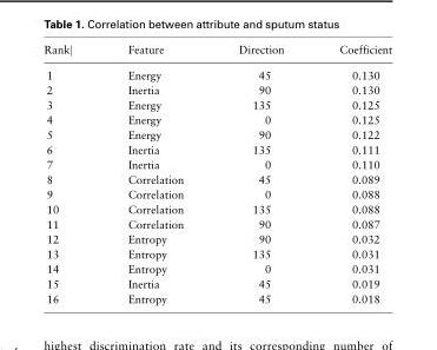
<table><thead><tr><td>Rank|</td><td>Feature</td><td>Direction</td><td>Coefficient</td></tr></thead><tbody><tr><td>1</td><td>Energy</td><td>45</td><td>0.130</td></tr><tr><td>2</td><td>Inertia</td><td>90</td><td>0.130</td></tr><tr><td>3</td><td>Energy</td><td>135</td><td>0.125</td></tr><tr><td>4</td><td>Energy</td><td>0</td><td>0.125</td></tr><tr><td>5</td><td>Energy</td><td>90</td><td>0.122</td></tr><tr><td>6</td><td>Inertia</td><td>135</td><td>0.111</td></tr><tr><td>7</td><td>Inertia</td><td>0</td><td>0.110</td></tr><tr><td>8</td><td>Correlation</td><td>45</td><td>0.089</td></tr><tr><td>9</td><td>Correlation</td><td>0</td><td>0.088</td></tr><tr><td>10</td><td>Correlation</td><td>135</td><td>0.088</td></tr><tr><td>11</td><td>Correlation</td><td>90</td><td>0.087</td></tr><tr><td>12</td><td>Entropy</td><td>90</td><td>0.032</td></tr><tr><td>13</td><td>Entropy</td><td>135</td><td>0.031</td></tr><tr><td>14</td><td>Entropy</td><td>0</td><td>0.031</td></tr><tr><td>15</td><td>Inertia</td><td>45</td><td>0.019</td></tr><tr><td>16</td><td>Entropy</td><td>45</td><td>0.018</td></tr></tbody></table>